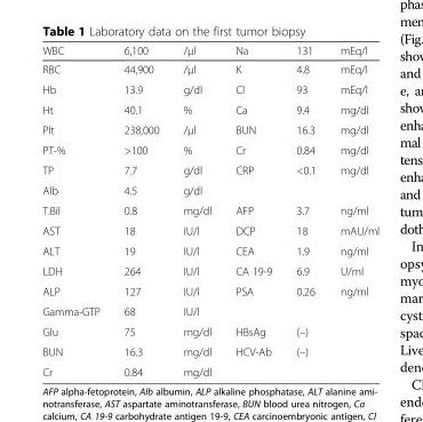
<table><thead><tr><td>WBC</td><td>6,100</td><td>/μl</td><td>Na</td><td>131</td><td>mEq/l</td></tr></thead><tbody><tr><td>RBC</td><td>44,900</td><td>/μl</td><td>K</td><td>4.8</td><td>mEq/l</td></tr><tr><td>Hb</td><td>13.9</td><td>g/dl</td><td>Cl</td><td>93</td><td>mEq/l</td></tr><tr><td>Ht</td><td>40.1</td><td>%</td><td>Ca</td><td>9.4</td><td>mg/dl</td></tr><tr><td>Plt</td><td>238,000</td><td>/μl</td><td>BUN</td><td>16.3</td><td>mg/dl</td></tr><tr><td>PT-%</td><td>&gt;100</td><td>%</td><td>Cr</td><td>0.84</td><td>mg/dl</td></tr><tr><td>TP</td><td>7.7</td><td>g/dl</td><td>CRP</td><td>&lt;0.1</td><td>mg/dl</td></tr><tr><td>Alb</td><td>4.5</td><td>g/dl</td><td></td><td></td><td></td></tr><tr><td>T.Bil</td><td>0.8</td><td>mg/dl</td><td>AFP</td><td>3.7</td><td>ng/ml</td></tr><tr><td>AST</td><td>18</td><td>IU/l</td><td>DCP</td><td>18</td><td>mAU/ml</td></tr><tr><td>ALT</td><td>19</td><td>IU/l</td><td>CEA</td><td>1.9</td><td>ng/ml</td></tr><tr><td>LDH</td><td>264</td><td>IU/l</td><td>CA 19-9</td><td>6.9</td><td>U/ml</td></tr><tr><td>ALP</td><td>127</td><td>IU/l</td><td>PSA</td><td>0.26</td><td>ng/ml</td></tr><tr><td>Gamma-GTP</td><td>68</td><td>IU/l</td><td></td><td></td><td></td></tr><tr><td>Glu</td><td>75</td><td>mg/dl</td><td>HBsAg</td><td colspan="2">(–)</td></tr><tr><td>BUN</td><td>16.3</td><td>mg/dl</td><td>HCV-Ab</td><td colspan="2">(–)</td></tr><tr><td>Cr</td><td>0.84</td><td>mg/dl</td><td></td><td></td><td></td></tr></tbody></table>